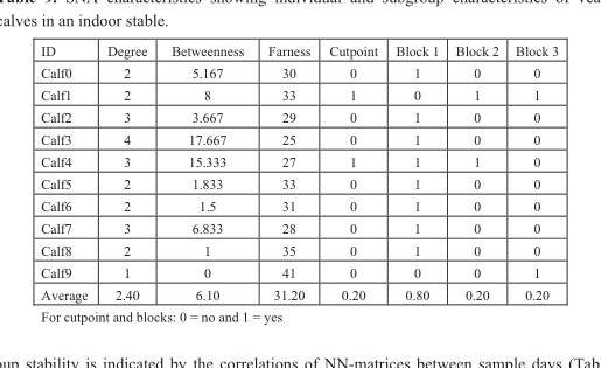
<table><tbody><tr><td>ID</td><td>Degree</td><td>Betweenness</td><td>Farness</td><td>Cutpoint</td><td>Block 1</td><td>Block 2</td><td>Block 3</td></tr><tr><td>Calf0</td><td>2</td><td>5.167</td><td>30</td><td>0</td><td>1</td><td>0</td><td>0</td></tr><tr><td>Calf1</td><td>2</td><td>8</td><td>33</td><td>1</td><td>0</td><td>1</td><td>1</td></tr><tr><td>Calf2</td><td>3</td><td>3.667</td><td>29</td><td>0</td><td>1</td><td>0</td><td>0</td></tr><tr><td>Calf3</td><td>4</td><td>17.667</td><td>25</td><td>0</td><td>1</td><td>0</td><td>0</td></tr><tr><td>Calf4</td><td>3</td><td>15.333</td><td>27</td><td>1</td><td>1</td><td>1</td><td>0</td></tr><tr><td>Calf5</td><td>2</td><td>1.833</td><td>33</td><td>0</td><td>1</td><td>0</td><td>0</td></tr><tr><td>Calf6</td><td>2</td><td>1.5</td><td>31</td><td>0</td><td>1</td><td>0</td><td>0</td></tr><tr><td>Calf7</td><td>3</td><td>6.833</td><td>28</td><td>0</td><td>1</td><td>0</td><td>0</td></tr><tr><td>Calf8</td><td>2</td><td>1</td><td>35</td><td>0</td><td>1</td><td>0</td><td>0</td></tr><tr><td>Calf9</td><td>1</td><td>0</td><td>41</td><td>0</td><td>0</td><td>0</td><td>1</td></tr><tr><td>Average</td><td>2.40</td><td>6.10</td><td>31.20</td><td>0.20</td><td>0.80</td><td>0.20</td><td>0.20</td></tr><tr><td colspan="4">For cutpoint and blocks: 0 = no and 1 = yes</td><td></td><td></td><td></td><td></td></tr></tbody></table>